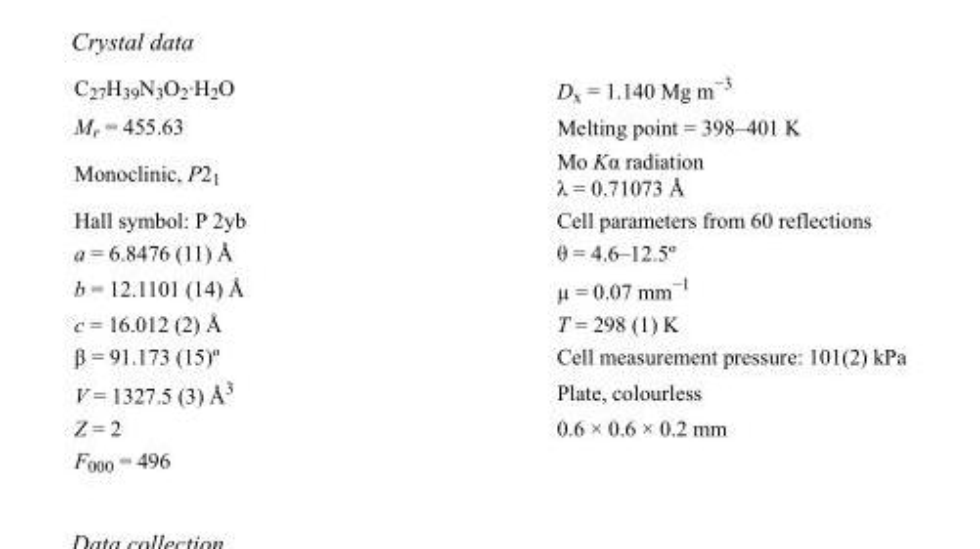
<table><tbody><tr><td>C<sub>27</sub>H<sub>39</sub>N<sub>3</sub>O<sub>2</sub>·H<sub>2</sub>O</td><td>D<sub>x</sub> = 1.140 Mg m<sup>−3</sup></td></tr><tr><td>M<sub>r</sub> = 455.63</td><td>Melting point = 398–401 K</td></tr><tr><td>Monoclinic, P2<sub>1</sub></td><td>Mo Kα radiation λ = 0.71073 Å</td></tr><tr><td>Hall symbol: P 2yb</td><td>Cell parameters from 60 reflections</td></tr><tr><td>a = 6.8476 (11) Å</td><td>θ = 4.6–12.5º</td></tr><tr><td>b = 12.1101 (14) Å</td><td>µ = 0.07 mm<sup>−1</sup></td></tr><tr><td>c = 16.012 (2) Å</td><td>T = 298 (1) K</td></tr><tr><td>β = 91.173 (15)º</td><td>Cell measurement pressure: 101(2) kPa</td></tr><tr><td>V = 1327.5 (3) Å<sup>3</sup></td><td>Plate, colourless</td></tr><tr><td>Z = 2</td><td>0.6 × 0.6 × 0.2 mm</td></tr><tr><td>F<sub>000</sub> = 496</td><td></td></tr></tbody></table>